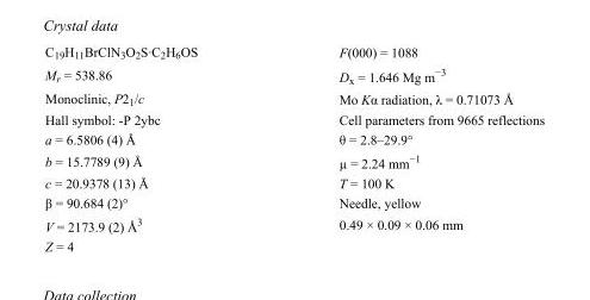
<table><tbody><tr><td>C<sub>19</sub>H<sub>11</sub>BrClN<sub>3</sub>O<sub>2</sub>S·C<sub>2</sub>H<sub>6</sub>OS</td><td>F(000) = 1088</td></tr><tr><td>M<sub>r</sub> = 538.86</td><td>D<sub>x</sub> = 1.646 Mg m<sup>−3</sup></td></tr><tr><td>Monoclinic, P2<sub>1</sub>/c</td><td>Mo Kα radiation, λ = 0.71073 Å</td></tr><tr><td>Hall symbol: -P 2ybc</td><td>Cell parameters from 9665 reflections</td></tr><tr><td>a = 6.5806 (4) Å</td><td>θ = 2.8–29.9°</td></tr><tr><td>b = 15.7789 (9) Å</td><td>µ = 2.24 mm<sup>−1</sup></td></tr><tr><td>c = 20.9378 (13) Å</td><td>T = 100 K</td></tr><tr><td>β = 90.684 (2)°</td><td>Needle, yellow</td></tr><tr><td>V = 2173.9 (2) Å<sup>3</sup></td><td>0.49 × 0.09 × 0.06 mm</td></tr><tr><td>Z = 4</td><td></td></tr></tbody></table>